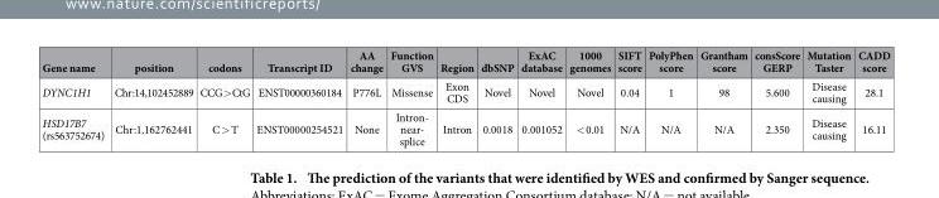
<table><thead><tr><td>Gene name</td><td>position</td><td>codons</td><td>Transcript ID</td><td>AA change</td><td>Function GVS</td><td>Region</td><td>dbSNP</td><td>ExAC database</td><td>1000 genomes</td><td>SIFT score</td><td>PolyPhen score</td><td>Grantham score</td><td>consScore GERP</td><td>Mutation Taster</td><td>CADD score</td></tr></thead><tbody><tr><td>DYNC1H1</td><td>Chr:14,102452889</td><td>CCG &gt; CtG</td><td>ENST00000360184</td><td>P776L</td><td>Missense</td><td>Exon CDS</td><td>Novel</td><td>Novel</td><td>Novel</td><td>0.04</td><td>1</td><td>98</td><td>5.600</td><td>Disease causing</td><td>28.1</td></tr><tr><td>HSD17B7 (rs563752674)</td><td>Chr:1,162762441</td><td>C &gt; T</td><td>ENST00000254521</td><td>None</td><td>Intron- near- splice</td><td>Intron</td><td>0.0018</td><td>0.001052</td><td>&lt; 0.01</td><td>N/A</td><td>N/A</td><td>N/A</td><td>2.350</td><td>Disease causing</td><td>16.11</td></tr></tbody></table>